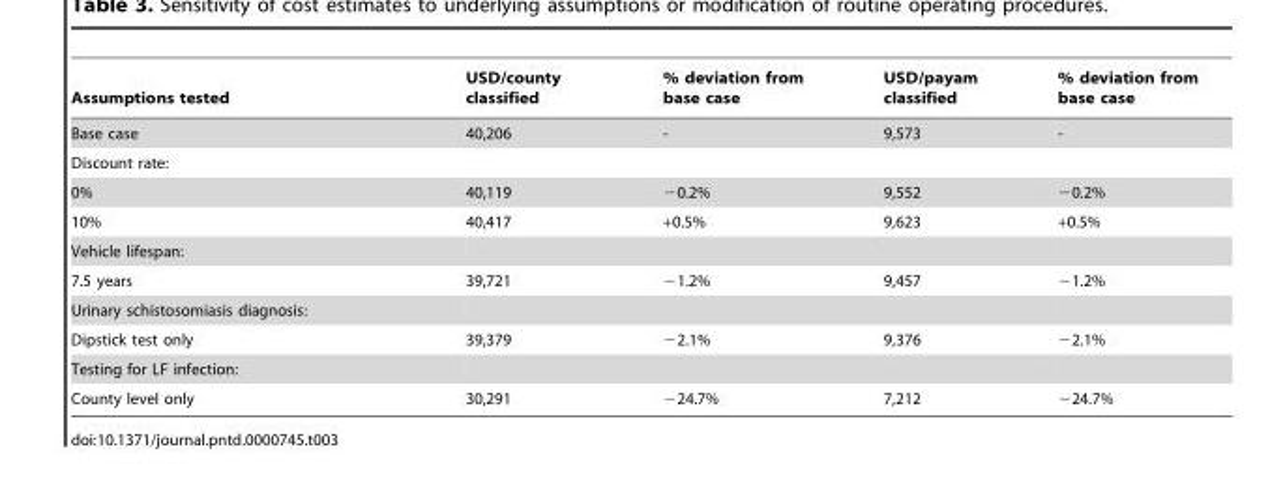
<table><thead><tr><td>Assumptions tested</td><td>USD/county classified</td><td>% deviation from base case</td><td>USD/payam classified</td><td>% deviation from base case</td></tr></thead><tbody><tr><td>Base case</td><td>40,206</td><td>-</td><td>9,573</td><td>-</td></tr><tr><td colspan="5">Discount rate:</td></tr><tr><td>0%</td><td>40,119</td><td>−0.2%</td><td>9,552</td><td>−0.2%</td></tr><tr><td>10%</td><td>40,417</td><td>+0.5%</td><td>9,623</td><td>+0.5%</td></tr><tr><td colspan="5">Vehicle lifespan:</td></tr><tr><td>7.5 years</td><td>39,721</td><td>−1.2%</td><td>9,457</td><td>−1.2%</td></tr><tr><td colspan="5">Urinary schistosomiasis diagnosis:</td></tr><tr><td>Dipstick test only</td><td>39,379</td><td>−2.1%</td><td>9,376</td><td>−2.1%</td></tr><tr><td colspan="5">Testing for LF infection:</td></tr><tr><td>County level only</td><td>30,291</td><td>−24.7%</td><td>7,212</td><td>−24.7%</td></tr></tbody></table>